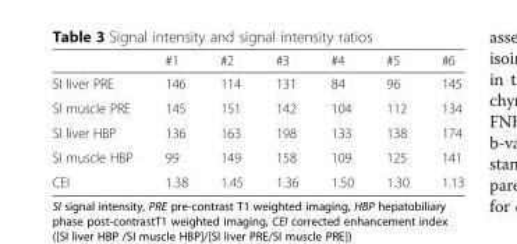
<table><thead><tr><td></td><td>#1</td><td>#2</td><td>#3</td><td>#4</td><td>#5</td><td>#6</td></tr></thead><tbody><tr><td>SI liver PRE</td><td>146</td><td>114</td><td>131</td><td>84</td><td>96</td><td>145</td></tr><tr><td>SI muscle PRE</td><td>145</td><td>151</td><td>142</td><td>104</td><td>112</td><td>134</td></tr><tr><td>SI liver HBP</td><td>136</td><td>163</td><td>198</td><td>133</td><td>138</td><td>174</td></tr><tr><td>SI muscle HBP</td><td>99</td><td>149</td><td>158</td><td>109</td><td>125</td><td>141</td></tr><tr><td>CEI</td><td>1.38</td><td>1.45</td><td>1.36</td><td>1.50</td><td>1.30</td><td>1.13</td></tr></tbody></table>